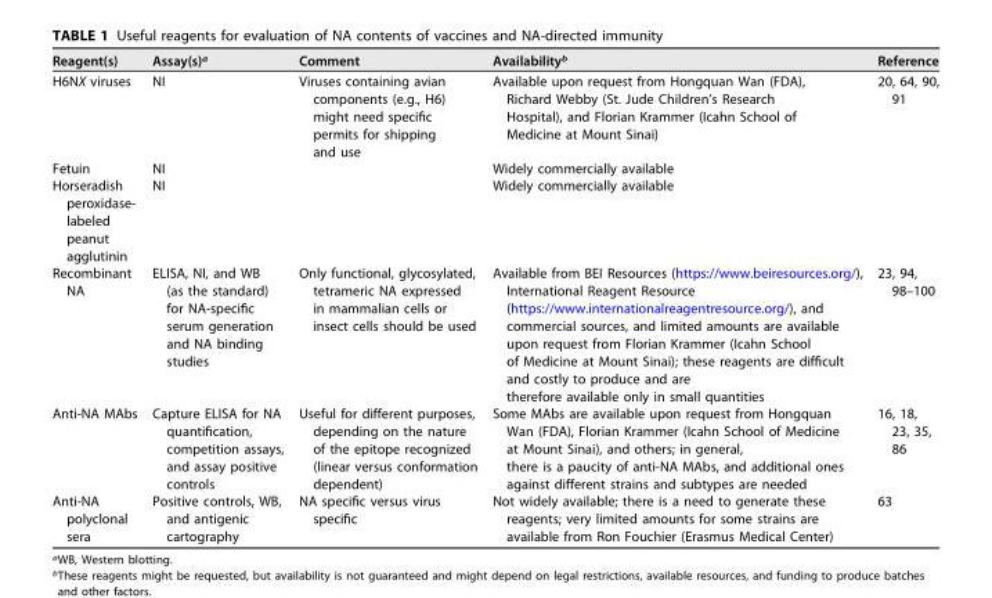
<table><thead><tr><td>Reagent(s)</td><td>Assay(s)<sup>a</sup></td><td>Comment</td><td>Availability<sup>b</sup></td><td>Reference</td></tr></thead><tbody><tr><td>H6NX viruses</td><td>NI</td><td>Viruses containing avian components (e.g., H6) might need specific permits for shipping and use</td><td>Available upon request from Hongquan Wan (FDA), Richard Webby (St. Jude Children’s Research Hospital), and Florian Krammer (Icahn School of Medicine at Mount Sinai)</td><td>20, 64, 90, 91</td></tr><tr><td>Fetuin</td><td>NI</td><td></td><td>Widely commercially available</td><td></td></tr><tr><td>Horseradish peroxidase- labeled peanut agglutinin</td><td>NI</td><td></td><td>Widely commercially available</td><td></td></tr><tr><td>Recombinant NA</td><td>ELISA, NI, and WB (as the standard) for NA-specific serum generation and NA binding studies</td><td>Only functional, glycosylated, tetrameric NA expressed in mammalian cells or insect cells should be used</td><td>Available from BEI Resources (https://www.beiresources.org/), International Reagent Resource (https://www.internationalreagentresource.org/), and commercial sources, and limited amounts are available upon request from Florian Krammer (Icahn School of Medicine at Mount Sinai); these reagents are difficult and costly to produce and are therefore available only in small quantities</td><td>23, 94, 98–100</td></tr><tr><td>Anti-NA MAbs</td><td>Capture ELISA for NA quantification, competition assays, and assay positive controls</td><td>Useful for different purposes, depending on the nature of the epitope recognized (linear versus conformation dependent)</td><td>Some MAbs are available upon request from Hongquan Wan (FDA), Florian Krammer (Icahn School of Medicine at Mount Sinai), and others; in general, there is a paucity of anti-NA MAbs, and additional ones against different strains and subtypes are needed</td><td>16, 18, 23, 35, 86</td></tr><tr><td>Anti-NA polyclonal sera</td><td>Positive controls, WB, and antigenic cartography</td><td>NA specific versus virus specific</td><td>Not widely available; there is a need to generate these reagents; very limited amounts for some strains are available from Ron Fouchier (Erasmus Medical Center)</td><td>63</td></tr></tbody></table>